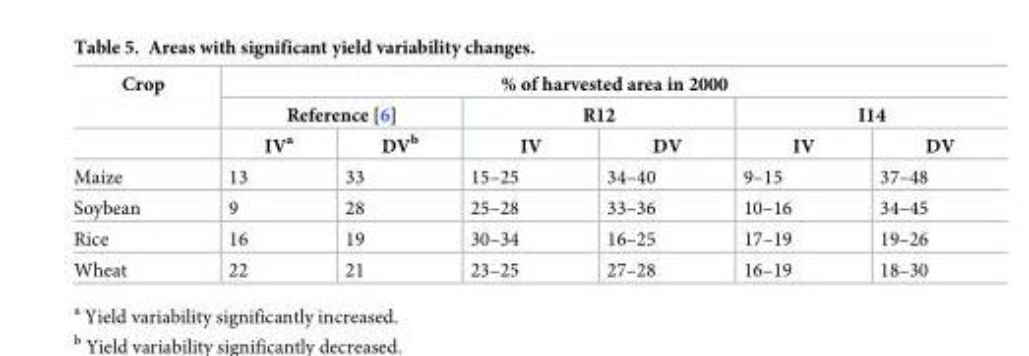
<table><thead><tr><td rowspan="3">Crop</td><td colspan="6">% of harvested area in 2000</td></tr><tr><td colspan="2">Reference [6]</td><td colspan="2">R12</td><td colspan="2">I14</td></tr><tr><td>IV<sup>a</sup></td><td>DV<sup>b</sup></td><td>IV</td><td>DV</td><td>IV</td><td>DV</td></tr></thead><tbody><tr><td>Maize</td><td>13</td><td>33</td><td>15–25</td><td>34–40</td><td>9–15</td><td>37–48</td></tr><tr><td>Soybean</td><td>9</td><td>28</td><td>25–28</td><td>33–36</td><td>10–16</td><td>34–45</td></tr><tr><td>Rice</td><td>16</td><td>19</td><td>30–34</td><td>16–25</td><td>17–19</td><td>19–26</td></tr><tr><td>Wheat</td><td>22</td><td>21</td><td>23–25</td><td>27–28</td><td>16–19</td><td>18–30</td></tr></tbody></table>